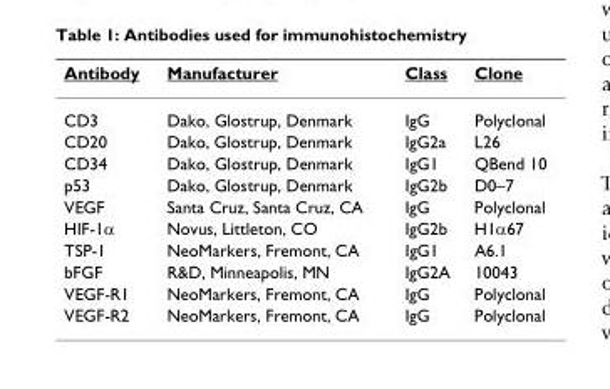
<table><thead><tr><td>Antibody</td><td>Manufacturer</td><td>Class</td><td>Clone</td></tr></thead><tbody><tr><td>CD3</td><td>Dako, Glostrup, Denmark</td><td>IgG</td><td>Polyclonal</td></tr><tr><td>CD20</td><td>Dako, Glostrup, Denmark</td><td>IgG2a</td><td>L26</td></tr><tr><td>CD34</td><td>Dako, Glostrup, Denmark</td><td>IgG1</td><td>QBend 10</td></tr><tr><td>p53</td><td>Dako, Glostrup, Denmark</td><td>IgG2b</td><td>D0–7</td></tr><tr><td>VEGF</td><td>Santa Cruz, Santa Cruz, CA</td><td>IgG</td><td>Polyclonal</td></tr><tr><td>HIF-1α</td><td>Novus, Littleton, CO</td><td>IgG2b</td><td>H1α67</td></tr><tr><td>TSP-1</td><td>NeoMarkers, Fremont, CA</td><td>IgG1</td><td>A6.1</td></tr><tr><td>bFGF</td><td>R&amp;D, Minneapolis, MN</td><td>IgG2A</td><td>10043</td></tr><tr><td>VEGF-R1</td><td>NeoMarkers, Fremont, CA</td><td>IgG</td><td>Polyclonal</td></tr><tr><td>VEGF-R2</td><td>NeoMarkers, Fremont, CA</td><td>IgG</td><td>Polyclonal</td></tr></tbody></table>